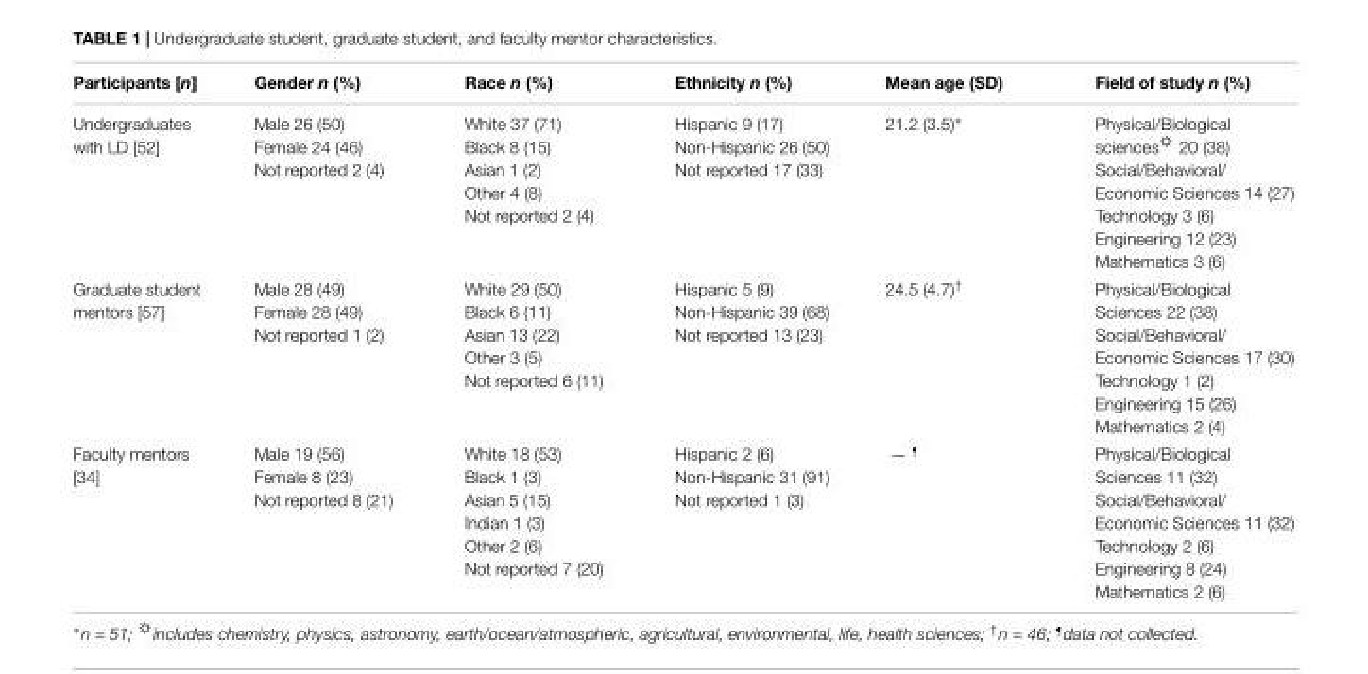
<table><thead><tr><td>Participants [n]</td><td>Gender n (%)</td><td>Race n (%)</td><td>Ethnicity n (%)</td><td>Mean age (SD)</td><td>Field of study n (%)</td></tr></thead><tbody><tr><td>Undergraduates with LD [52]</td><td>Male 26 (50) Female 24 (46) Not reported 2 (4)</td><td>White 37 (71) Black 8 (15) Asian 1 (2) Other 4 (8) Not reported 2 (4)</td><td>Hispanic 9 (17) Non-Hispanic 26 (50) Not reported 17 (33)</td><td>21.2 (3.5)∗</td><td>Physical/Biological sciences☼ 20 (38) Social/Behavioral/ Economic Sciences 14 (27) Technology 3 (6) Engineering 12 (23) Mathematics 3 (6)</td></tr><tr><td>Graduate student mentors [57]</td><td>Male 28 (49) Female 28 (49) Not reported 1 (2)</td><td>White 29 (50) Black 6 (11) Asian 13 (22) Other 3 (5) Not reported 6 (11)</td><td>Hispanic 5 (9) Non-Hispanic 39 (68) Not reported 13 (23)</td><td>24.5 (4.7)<sup>†</sup></td><td>Physical/Biological Sciences 22 (38) Social/Behavioral/ Economic Sciences 17 (30) Technology 1 (2) Engineering 15 (26) Mathematics 2 (4)</td></tr><tr><td>Faculty mentors [34]</td><td>Male 19 (56) Female 8 (23) Not reported 8 (21)</td><td>White 18 (53) Black 1 (3) Asian 5 (15) Indian 1 (3) Other 2 (6) Not reported 7 (20)</td><td>Hispanic 2 (6) Non-Hispanic 31 (91) Not reported 1 (3)</td><td>— <sup>¶</sup></td><td>Physical/Biological Sciences 11 (32) Social/Behavioral/ Economic Sciences 11 (32) Technology 2 (6) Engineering 8 (24) Mathematics 2 (6)</td></tr></tbody></table>